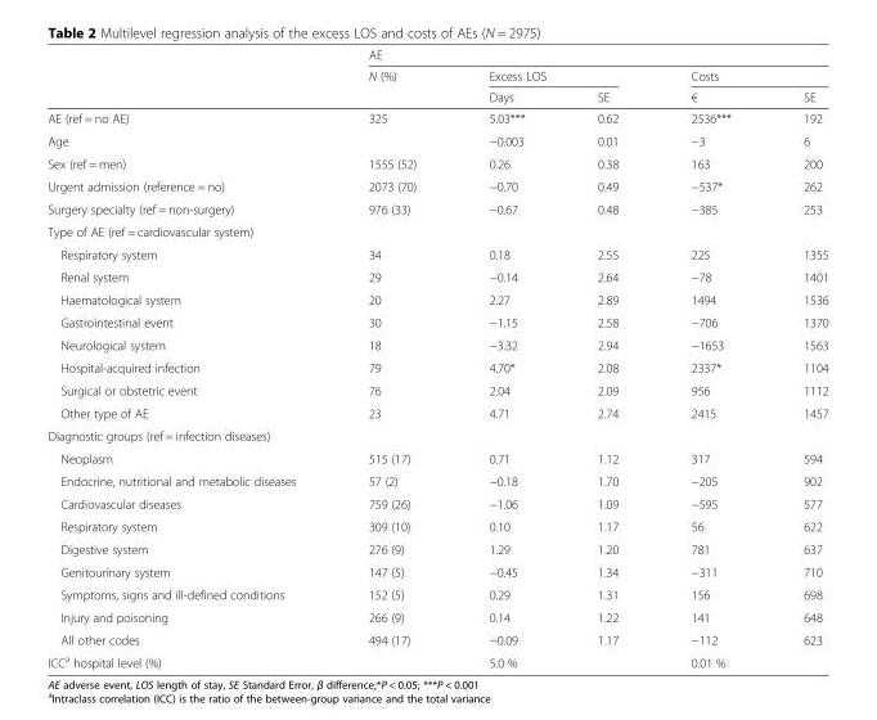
<table><thead><tr><td rowspan="3"></td><td colspan="5">AE</td></tr><tr><td rowspan="2">N (%)</td><td colspan="2">Excess LOS</td><td colspan="2">Costs</td></tr><tr><td>Days</td><td>SE</td><td>€</td><td>SE</td></tr></thead><tbody><tr><td>AE (ref = no AE)</td><td>325</td><td>5.03***</td><td>0.62</td><td>2536***</td><td>192</td></tr><tr><td>Age</td><td></td><td>−0.003</td><td>0.01</td><td>−3</td><td>6</td></tr><tr><td>Sex (ref = men)</td><td>1555 (52)</td><td>0.26</td><td>0.38</td><td>163</td><td>200</td></tr><tr><td>Urgent admission (reference = no)</td><td>2073 (70)</td><td>−0.70</td><td>0.49</td><td>−537*</td><td>262</td></tr><tr><td>Surgery specialty (ref = non-surgery)</td><td>976 (33)</td><td>−0.67</td><td>0.48</td><td>−385</td><td>253</td></tr><tr><td colspan="6">Type of AE (ref = cardiovascular system)</td></tr><tr><td>Respiratory system</td><td>34</td><td>0.18</td><td>2.55</td><td>225</td><td>1355</td></tr><tr><td>Renal system</td><td>29</td><td>−0.14</td><td>2.64</td><td>−78</td><td>1401</td></tr><tr><td>Haematological system</td><td>20</td><td>2.27</td><td>2.89</td><td>1494</td><td>1536</td></tr><tr><td>Gastrointestinal event</td><td>30</td><td>−1.15</td><td>2.58</td><td>−706</td><td>1370</td></tr><tr><td>Neurological system</td><td>18</td><td>−3.32</td><td>2.94</td><td>−1653</td><td>1563</td></tr><tr><td>Hospital-acquired infection</td><td>79</td><td>4.70*</td><td>2.08</td><td>2337*</td><td>1104</td></tr><tr><td>Surgical or obstetric event</td><td>76</td><td>2.04</td><td>2.09</td><td>956</td><td>1112</td></tr><tr><td>Other type of AE</td><td>23</td><td>4.71</td><td>2.74</td><td>2415</td><td>1457</td></tr><tr><td colspan="6">Diagnostic groups (ref = infection diseases)</td></tr><tr><td>Neoplasm</td><td>515 (17)</td><td>0.71</td><td>1.12</td><td>317</td><td>594</td></tr><tr><td>Endocrine, nutritional and metabolic diseases</td><td>57 (2)</td><td>−0.18</td><td>1.70</td><td>−205</td><td>902</td></tr><tr><td>Cardiovascular diseases</td><td>759 (26)</td><td>−1.06</td><td>1.09</td><td>−595</td><td>577</td></tr><tr><td>Respiratory system</td><td>309 (10)</td><td>0.10</td><td>1.17</td><td>56</td><td>622</td></tr><tr><td>Digestive system</td><td>276 (9)</td><td>1.29</td><td>1.20</td><td>781</td><td>637</td></tr><tr><td>Genitourinary system</td><td>147 (5)</td><td>−0.45</td><td>1.34</td><td>−311</td><td>710</td></tr><tr><td>Symptoms, signs and ill-defined conditions</td><td>152 (5)</td><td>0.29</td><td>1.31</td><td>156</td><td>698</td></tr><tr><td>Injury and poisoning</td><td>266 (9)</td><td>0.14</td><td>1.22</td><td>141</td><td>648</td></tr><tr><td>All other codes</td><td>494 (17)</td><td>−0.09</td><td>1.17</td><td>−112</td><td>623</td></tr><tr><td>ICC<sup>a</sup> hospital level (%)</td><td></td><td>5.0 %</td><td></td><td>0.01 %</td><td></td></tr></tbody></table>